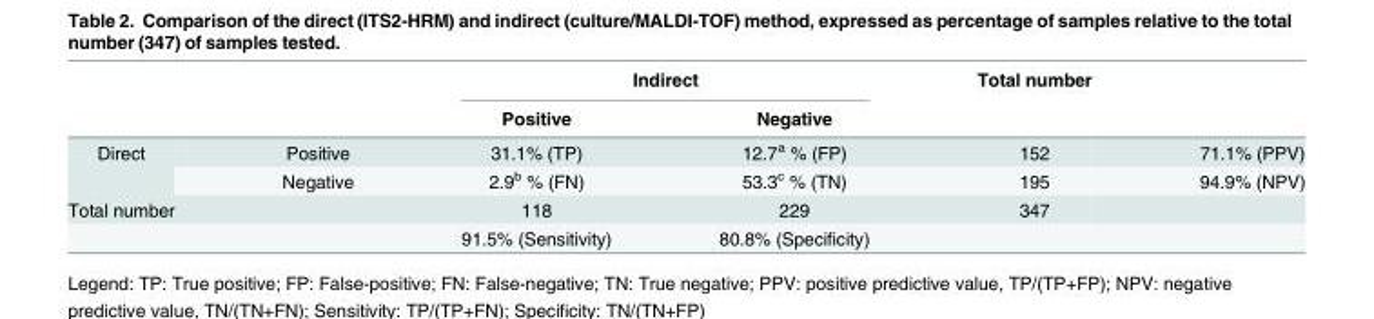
<table><thead><tr><td rowspan="2"></td><td rowspan="2"></td><td colspan="2">Indirect</td><td rowspan="2">Total number</td><td rowspan="2"></td></tr><tr><td>Positive</td><td>Negative</td></tr></thead><tbody><tr><td rowspan="2">Direct</td><td>Positive</td><td>31.1% (TP)</td><td>12.7<sup>a</sup> % (FP)</td><td>152</td><td>71.1% (PPV)</td></tr><tr><td>Negative</td><td>2.9<sup>b</sup> % (FN)</td><td>53.3<sup>c</sup> % (TN)</td><td>195</td><td>94.9% (NPV)</td></tr><tr><td rowspan="2">Total number</td><td></td><td>118</td><td>229</td><td>347</td><td></td></tr><tr><td></td><td>91.5% (Sensitivity)</td><td>80.8% (Specificity)</td><td></td><td></td></tr></tbody></table>